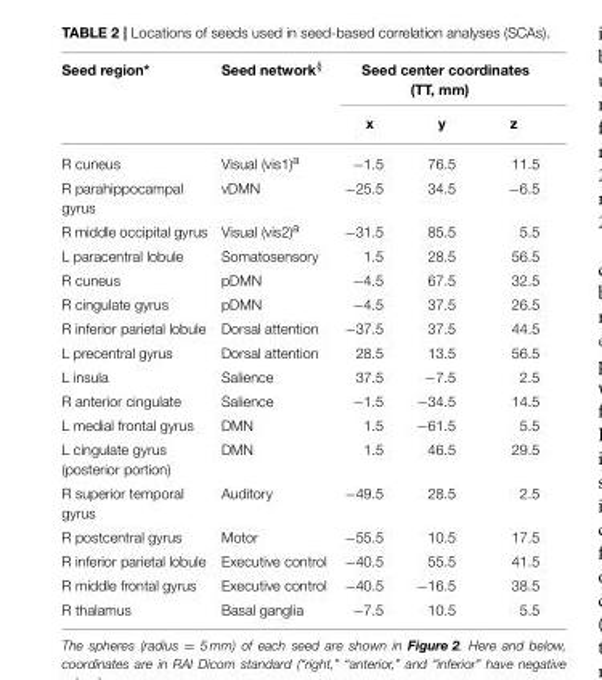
<table><thead><tr><td rowspan="2">Seed region*</td><td rowspan="2">Seed network<sup>§</sup></td><td colspan="3">Seed center coordinates (TT, mm)</td></tr><tr><td>x</td><td>y</td><td>z</td></tr></thead><tbody><tr><td>R cuneus</td><td>Visual (vis1)<sup>a</sup></td><td>−1.5</td><td>76.5</td><td>11.5</td></tr><tr><td>R parahippocampal gyrus</td><td>vDMN</td><td>−25.5</td><td>34.5</td><td>−6.5</td></tr><tr><td>R middle occipital gyrus</td><td>Visual (vis2)<sup>a</sup></td><td>−31.5</td><td>85.5</td><td>5.5</td></tr><tr><td>L paracentral lobule</td><td>Somatosensory</td><td>1.5</td><td>28.5</td><td>56.5</td></tr><tr><td>R cuneus</td><td>pDMN</td><td>−4.5</td><td>67.5</td><td>32.5</td></tr><tr><td>R cingulate gyrus</td><td>pDMN</td><td>−4.5</td><td>37.5</td><td>26.5</td></tr><tr><td>R inferior parietal lobule</td><td>Dorsal attention</td><td>−37.5</td><td>37.5</td><td>44.5</td></tr><tr><td>L precentral gyrus</td><td>Dorsal attention</td><td>28.5</td><td>13.5</td><td>56.5</td></tr><tr><td>L insula</td><td>Salience</td><td>37.5</td><td>−7.5</td><td>2.5</td></tr><tr><td>R anterior cingulate</td><td>Salience</td><td>−1.5</td><td>−34.5</td><td>14.5</td></tr><tr><td>L medial frontal gyrus</td><td>DMN</td><td>1.5</td><td>−61.5</td><td>5.5</td></tr><tr><td>L cingulate gyrus (posterior portion)</td><td>DMN</td><td>1.5</td><td>46.5</td><td>29.5</td></tr><tr><td>R superior temporal gyrus</td><td>Auditory</td><td>−49.5</td><td>28.5</td><td>2.5</td></tr><tr><td>R postcentral gyrus</td><td>Motor</td><td>−55.5</td><td>10.5</td><td>17.5</td></tr><tr><td>R inferior parietal lobule</td><td>Executive control</td><td>−40.5</td><td>55.5</td><td>41.5</td></tr><tr><td>R middle frontal gyrus</td><td>Executive control</td><td>−40.5</td><td>−16.5</td><td>38.5</td></tr><tr><td>R thalamus</td><td>Basal ganglia</td><td>−7.5</td><td>10.5</td><td>5.5</td></tr></tbody></table>